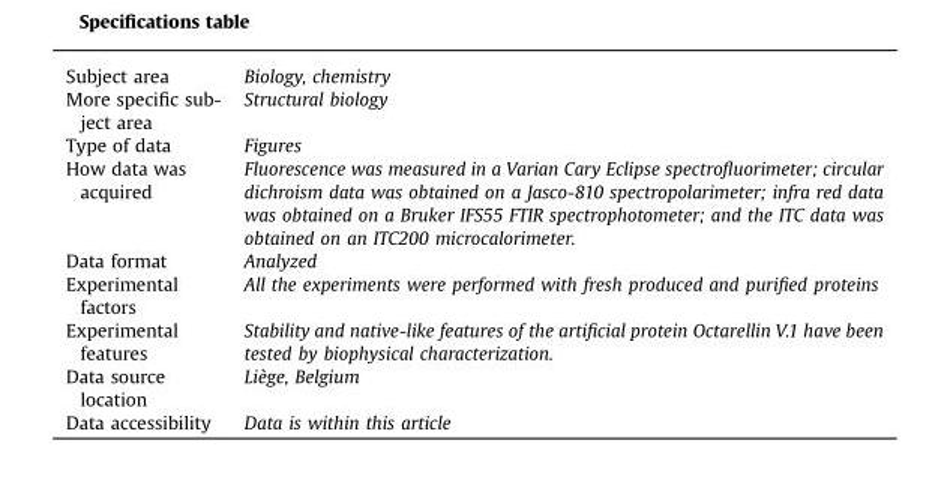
<table><tbody><tr><td>Subject area</td><td>Biology, chemistry</td></tr><tr><td>More specific sub- ject area</td><td>Structural biology</td></tr><tr><td>Type of data</td><td>Figures</td></tr><tr><td>How data was acquired</td><td>Fluorescence was measured in a Varian Cary Eclipse spectrofluorimeter; circular dichroism data was obtained on a Jasco-810 spectropolarimeter; infra red data was obtained on a Bruker IFS55 FTIR spectrophotometer; and the ITC data was obtained on an ITC200 microcalorimeter.</td></tr><tr><td>Data format</td><td>Analyzed</td></tr><tr><td>Experimental factors</td><td>All the experiments were performed with fresh produced and purified proteins</td></tr><tr><td>Experimental features</td><td>Stability and native-like features of the artificial protein Octarellin V.1 have been tested by biophysical characterization.</td></tr><tr><td>Data source location</td><td>Liège, Belgium</td></tr><tr><td>Data accessibility</td><td>Data is within this article</td></tr></tbody></table>